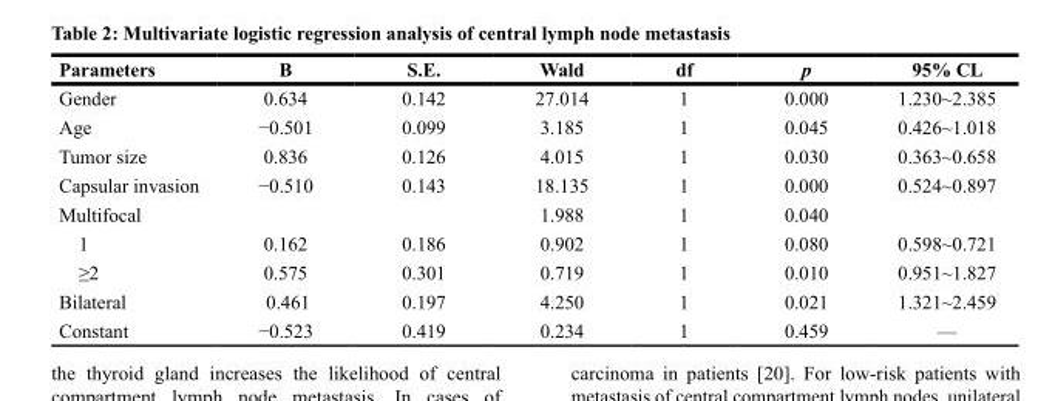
<table><thead><tr><td>Parameters</td><td>B</td><td>S.E.</td><td>Wald</td><td>df</td><td>p</td><td>95% CL</td></tr></thead><tbody><tr><td>Gender</td><td>0.634</td><td>0.142</td><td>27.014</td><td>1</td><td>0.000</td><td>1.230~2.385</td></tr><tr><td>Age</td><td>−0.501</td><td>0.099</td><td>3.185</td><td>1</td><td>0.045</td><td>0.426~1.018</td></tr><tr><td>Tumor size</td><td>0.836</td><td>0.126</td><td>4.015</td><td>1</td><td>0.030</td><td>0.363~0.658</td></tr><tr><td>Capsular invasion</td><td>−0.510</td><td>0.143</td><td>18.135</td><td>1</td><td>0.000</td><td>0.524~0.897</td></tr><tr><td>Multifocal</td><td></td><td></td><td>1.988</td><td>1</td><td>0.040</td><td></td></tr><tr><td>1</td><td>0.162</td><td>0.186</td><td>0.902</td><td>1</td><td>0.080</td><td>0.598~0.721</td></tr><tr><td>≥2</td><td>0.575</td><td>0.301</td><td>0.719</td><td>1</td><td>0.010</td><td>0.951~1.827</td></tr><tr><td>Bilateral</td><td>0.461</td><td>0.197</td><td>4.250</td><td>1</td><td>0.021</td><td>1.321~2.459</td></tr><tr><td>Constant</td><td>−0.523</td><td>0.419</td><td>0.234</td><td>1</td><td>0.459</td><td>—</td></tr></tbody></table>